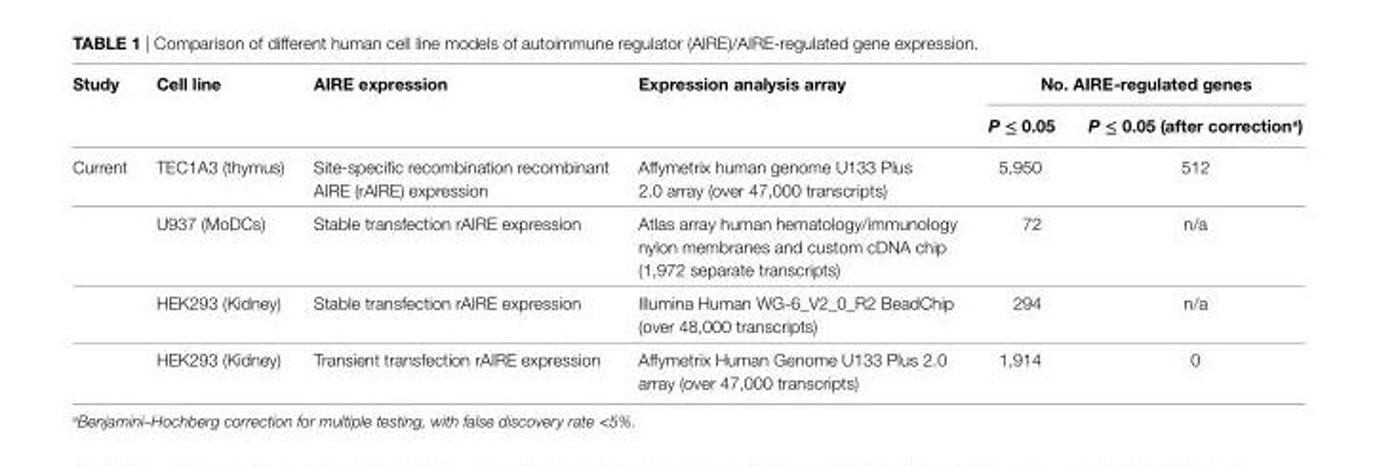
<table><thead><tr><td rowspan="2">study</td><td rowspan="2">cell line</td><td rowspan="2">aire expression</td><td rowspan="2">expression analysis array</td><td colspan="2">no. aire-regulated genes</td></tr><tr><td>P ≤ 0.05</td><td>P ≤ 0.05 (after correction<sup>a</sup>)</td></tr></thead><tbody><tr><td rowspan="4">Current</td><td>TEC1A3 (thymus)</td><td>Site-specific recombination recombinant AIRE (rAIRE) expression</td><td>Affymetrix human genome U133 Plus 2.0 array (over 47,000 transcripts)</td><td>5,950</td><td>512</td></tr><tr><td>U937 (MoDCs)</td><td>Stable transfection rAIRE expression</td><td>Atlas array human hematology/immunology nylon membranes and custom cDNA chip (1,972 separate transcripts)</td><td>72</td><td>n/a</td></tr><tr><td>HEK293 (Kidney)</td><td>Stable transfection rAIRE expression</td><td>Illumina Human WG-6_V2_0_R2 BeadChip (over 48,000 transcripts)</td><td>294</td><td>n/a</td></tr><tr><td>HEK293 (Kidney)</td><td>Transient transfection rAIRE expression</td><td>Affymetrix Human Genome U133 Plus 2.0 array (over 47,000 transcripts)</td><td>1,914</td><td>0</td></tr></tbody></table>